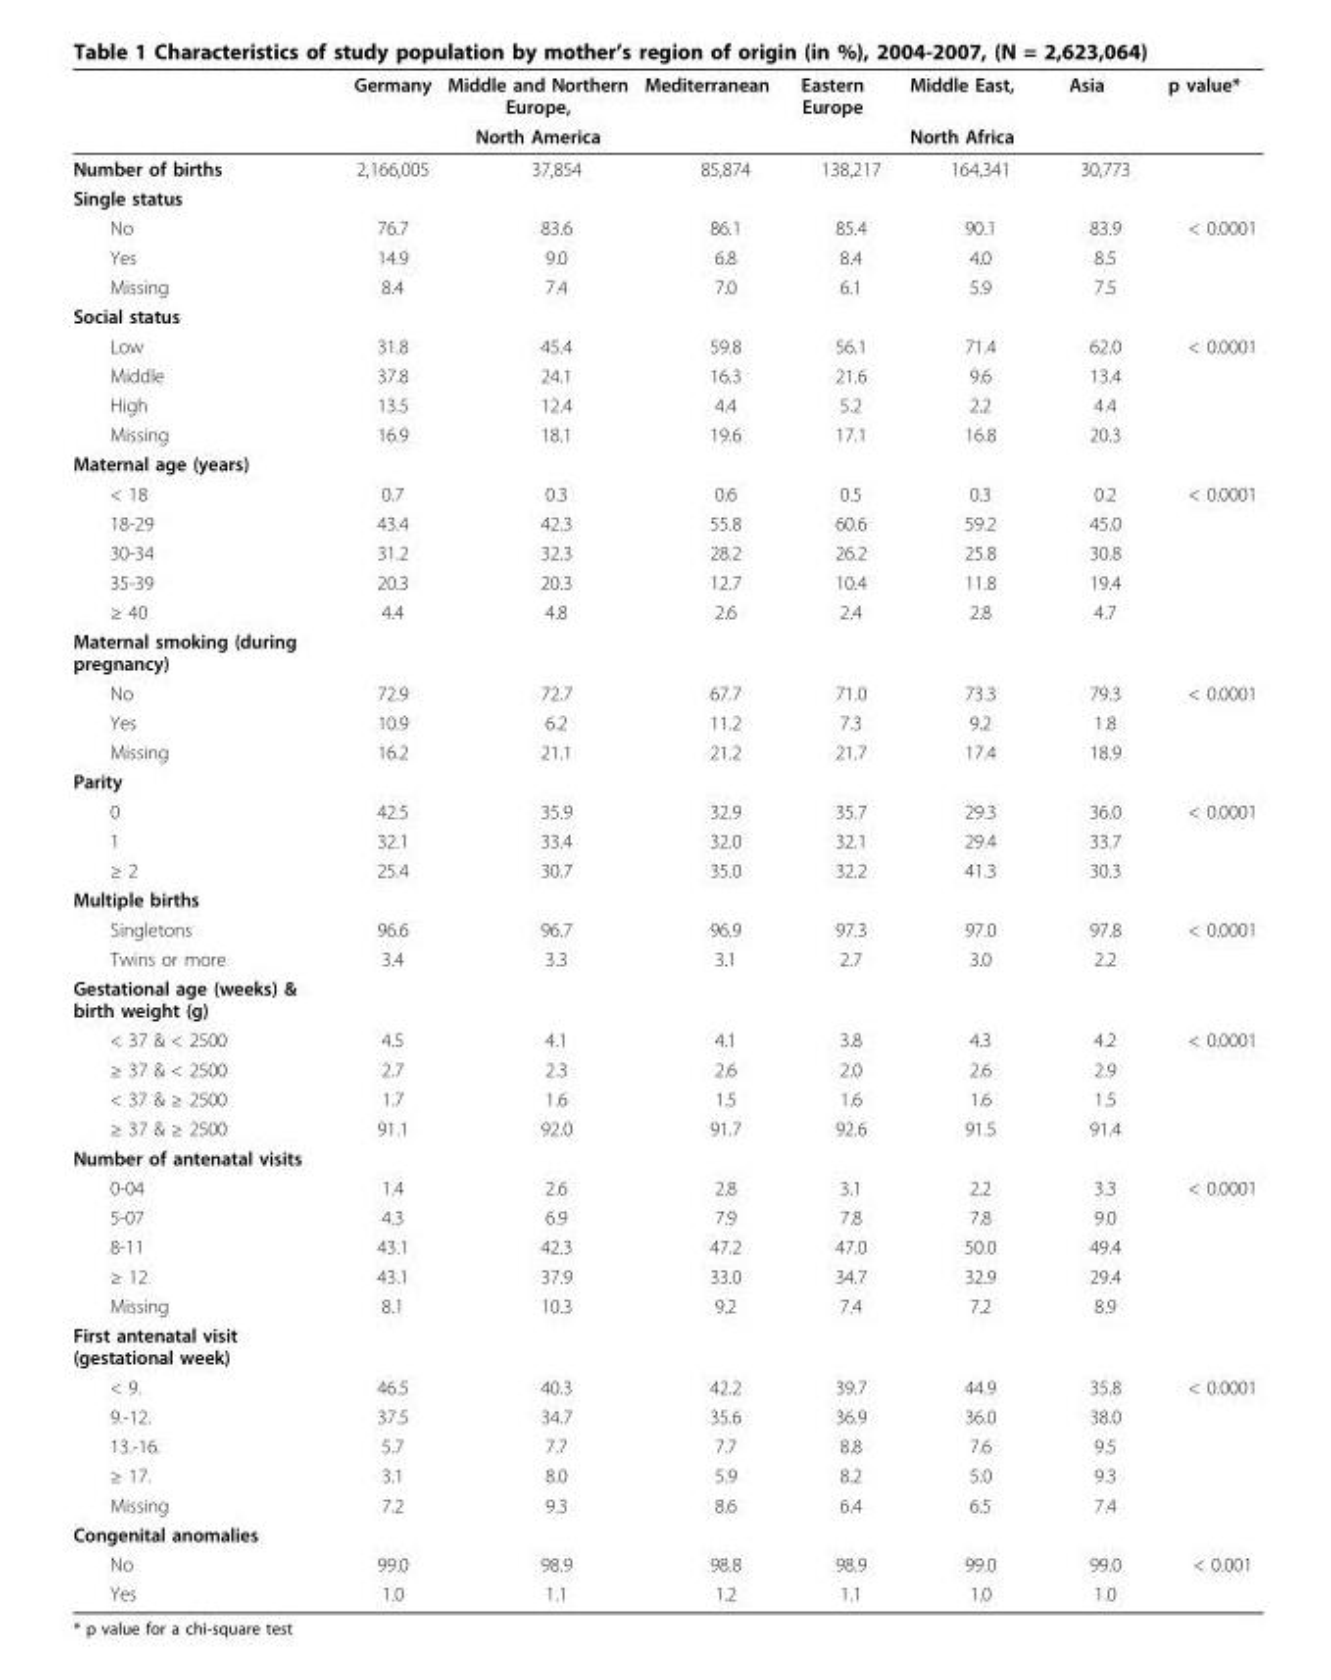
<table><thead><tr><td rowspan="2"></td><td rowspan="2">Germany</td><td rowspan="2">Middle and Northern Europe, North America</td><td rowspan="2">Mediterranean</td><td rowspan="2">Eastern Europe</td><td rowspan="2">Middle East, North Africa</td><td rowspan="2">Asia</td><td rowspan="2">p value*</td></tr><tr></tr></thead><tbody><tr><td>Number of births</td><td>2,166,005</td><td>37,854</td><td>85,874</td><td>138,217</td><td>164,341</td><td>30,773</td><td></td></tr><tr><td colspan="8">Single status</td></tr><tr><td>No</td><td>76.7</td><td>83.6</td><td>86.1</td><td>85.4</td><td>90.1</td><td>83.9</td><td>&lt; 0.0001</td></tr><tr><td>Yes</td><td>14.9</td><td>9.0</td><td>6.8</td><td>8.4</td><td>4.0</td><td>8.5</td><td></td></tr><tr><td>Missing</td><td>8.4</td><td>7.4</td><td>7.0</td><td>6.1</td><td>5.9</td><td>7.5</td><td></td></tr><tr><td colspan="8">Social status</td></tr><tr><td>Low</td><td>31.8</td><td>45.4</td><td>59.8</td><td>56.1</td><td>71.4</td><td>62.0</td><td>&lt; 0.0001</td></tr><tr><td>Middle</td><td>37.8</td><td>24.1</td><td>16.3</td><td>21.6</td><td>9.6</td><td>13.4</td><td></td></tr><tr><td>High</td><td>13.5</td><td>12.4</td><td>4.4</td><td>5.2</td><td>2.2</td><td>4.4</td><td></td></tr><tr><td>Missing</td><td>16.9</td><td>18.1</td><td>19.6</td><td>17.1</td><td>16.8</td><td>20.3</td><td></td></tr><tr><td colspan="8">Maternal age (years)</td></tr><tr><td>&lt; 18</td><td>0.7</td><td>0.3</td><td>0.6</td><td>0.5</td><td>0.3</td><td>0.2</td><td>&lt; 0.0001</td></tr><tr><td>18-29</td><td>43.4</td><td>42.3</td><td>55.8</td><td>60.6</td><td>59.2</td><td>45.0</td><td></td></tr><tr><td>30-34</td><td>31.2</td><td>32.3</td><td>28.2</td><td>26.2</td><td>25.8</td><td>30.8</td><td></td></tr><tr><td>35-39</td><td>20.3</td><td>20.3</td><td>12.7</td><td>10.4</td><td>11.8</td><td>19.4</td><td></td></tr><tr><td>≥ 40</td><td>4.4</td><td>4.8</td><td>2.6</td><td>2.4</td><td>2.8</td><td>4.7</td><td></td></tr><tr><td colspan="8">Maternal smoking (during pregnancy)</td></tr><tr><td>No</td><td>72.9</td><td>72.7</td><td>67.7</td><td>71.0</td><td>73.3</td><td>79.3</td><td>&lt; 0.0001</td></tr><tr><td>Yes</td><td>10.9</td><td>6.2</td><td>11.2</td><td>7.3</td><td>9.2</td><td>1.8</td><td></td></tr><tr><td>Missing</td><td>16.2</td><td>21.1</td><td>21.2</td><td>21.7</td><td>17.4</td><td>18.9</td><td></td></tr><tr><td colspan="8">Parity</td></tr><tr><td>0</td><td>42.5</td><td>35.9</td><td>32.9</td><td>35.7</td><td>29.3</td><td>36.0</td><td>&lt; 0.0001</td></tr><tr><td>1</td><td>32.1</td><td>33.4</td><td>32.0</td><td>32.1</td><td>29.4</td><td>33.7</td><td></td></tr><tr><td>≥ 2</td><td>25.4</td><td>30.7</td><td>35.0</td><td>32.2</td><td>41.3</td><td>30.3</td><td></td></tr><tr><td colspan="8">Multiple births</td></tr><tr><td>Singletons</td><td>96.6</td><td>96.7</td><td>96.9</td><td>97.3</td><td>97.0</td><td>97.8</td><td>&lt; 0.0001</td></tr><tr><td>Twins or more</td><td>3.4</td><td>3.3</td><td>3.1</td><td>2.7</td><td>3.0</td><td>2.2</td><td></td></tr><tr><td colspan="8">Gestational age (weeks) &amp; birth weight (g)</td></tr><tr><td>&lt; 37 &amp; &lt; 2500</td><td>4.5</td><td>4.1</td><td>4.1</td><td>3.8</td><td>4.3</td><td>4.2</td><td>&lt; 0.0001</td></tr><tr><td>≥ 37 &amp; &lt; 2500</td><td>2.7</td><td>2.3</td><td>2.6</td><td>2.0</td><td>2.6</td><td>2.9</td><td></td></tr><tr><td>&lt; 37 &amp; ≥ 2500</td><td>1.7</td><td>1.6</td><td>1.5</td><td>1.6</td><td>1.6</td><td>1.5</td><td></td></tr><tr><td>≥ 37 &amp; ≥ 2500</td><td>91.1</td><td>92.0</td><td>91.7</td><td>92.6</td><td>91.5</td><td>91.4</td><td></td></tr><tr><td colspan="8">Number of antenatal visits</td></tr><tr><td>0-04</td><td>1.4</td><td>2.6</td><td>2.8</td><td>3.1</td><td>2.2</td><td>3.3</td><td>&lt; 0.0001</td></tr><tr><td>5-07</td><td>4.3</td><td>6.9</td><td>7.9</td><td>7.8</td><td>7.8</td><td>9.0</td><td></td></tr><tr><td>8-11</td><td>43.1</td><td>42.3</td><td>47.2</td><td>47.0</td><td>50.0</td><td>49.4</td><td></td></tr><tr><td>≥ 12</td><td>43.1</td><td>37.9</td><td>33.0</td><td>34.7</td><td>32.9</td><td>29.4</td><td></td></tr><tr><td>Missing</td><td>8.1</td><td>10.3</td><td>9.2</td><td>7.4</td><td>7.2</td><td>8.9</td><td></td></tr><tr><td colspan="8">First antenatal visit (gestational week)</td></tr><tr><td>&lt; 9.</td><td>46.5</td><td>40.3</td><td>42.2</td><td>39.7</td><td>44.9</td><td>35.8</td><td>&lt; 0.0001</td></tr><tr><td>9.-12.</td><td>37.5</td><td>34.7</td><td>35.6</td><td>36.9</td><td>36.0</td><td>38.0</td><td></td></tr><tr><td>13.-16.</td><td>5.7</td><td>7.7</td><td>7.7</td><td>8.8</td><td>7.6</td><td>9.5</td><td></td></tr><tr><td>≥ 17.</td><td>3.1</td><td>8.0</td><td>5.9</td><td>8.2</td><td>5.0</td><td>9.3</td><td></td></tr><tr><td>Missing</td><td>7.2</td><td>9.3</td><td>8.6</td><td>6.4</td><td>6.5</td><td>7.4</td><td></td></tr><tr><td colspan="8">Congenital anomalies</td></tr><tr><td>No</td><td>99.0</td><td>98.9</td><td>98.8</td><td>98.9</td><td>99.0</td><td>99.0</td><td>&lt; 0.001</td></tr><tr><td>Yes</td><td>1.0</td><td>1.1</td><td>1.2</td><td>1.1</td><td>1.0</td><td>1.0</td><td></td></tr></tbody></table>